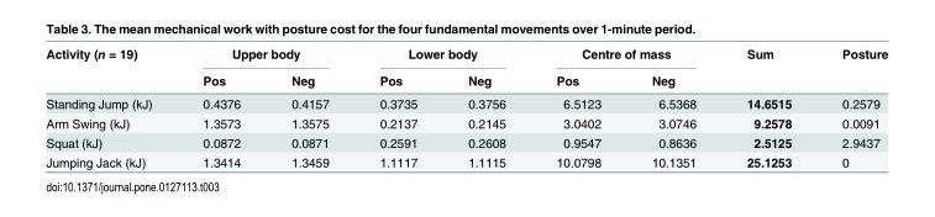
<table><thead><tr><td rowspan="2">Activity (n = 19)</td><td colspan="2">Upper body</td><td colspan="2">Lower body</td><td colspan="2">Centre of mass</td><td rowspan="2">Sum</td><td rowspan="2">Posture</td></tr><tr><td>Pos</td><td>Neg</td><td>Pos</td><td>Neg</td><td>Pos</td><td>Neg</td></tr></thead><tbody><tr><td>Standing Jump (kJ)</td><td>0.4376</td><td>0.4157</td><td>0.3735</td><td>0.3756</td><td>6.5123</td><td>6.5368</td><td>14.6515</td><td>0.2579</td></tr><tr><td>Arm Swing (kJ)</td><td>1.3573</td><td>1.3575</td><td>0.2137</td><td>0.2145</td><td>3.0402</td><td>3.0746</td><td>9.2578</td><td>0.0091</td></tr><tr><td>Squat (kJ)</td><td>0.0872</td><td>0.0871</td><td>0.2591</td><td>0.2608</td><td>0.9547</td><td>0.8636</td><td>2.5125</td><td>2.9437</td></tr><tr><td>Jumping Jack (kJ)</td><td>1.3414</td><td>1.3459</td><td>1.1117</td><td>1.1115</td><td>10.0798</td><td>10.1351</td><td>25.1253</td><td>0</td></tr></tbody></table>